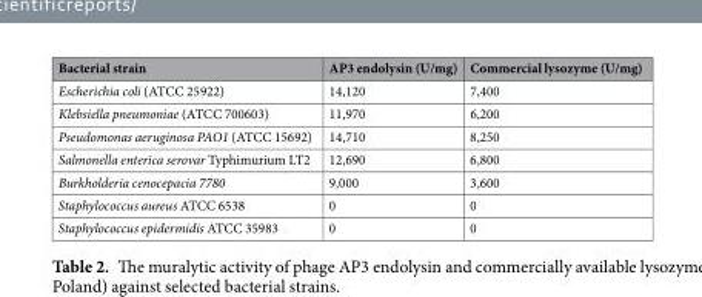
<table><thead><tr><td>Bacterial strain</td><td>AP3 endolysin (U/mg)</td><td>Commercial lysozyme (U/mg)</td></tr></thead><tbody><tr><td>Escherichia coli (ATCC 25922)</td><td>14,120</td><td>7,400</td></tr><tr><td>Klebsiella pneumoniae (ATCC 700603)</td><td>11,970</td><td>6,200</td></tr><tr><td>Pseudomonas aeruginosa PAO1 (ATCC 15692)</td><td>14,710</td><td>8,250</td></tr><tr><td>Salmonella enterica serovar Typhimurium LT2</td><td>12,690</td><td>6,800</td></tr><tr><td>Burkholderia cenocepacia 7780</td><td>9,000</td><td>3,600</td></tr><tr><td>Staphylococcus aureus ATCC 6538</td><td>0</td><td>0</td></tr><tr><td>Staphylococcus epidermidis ATCC 35983</td><td>0</td><td>0</td></tr></tbody></table>